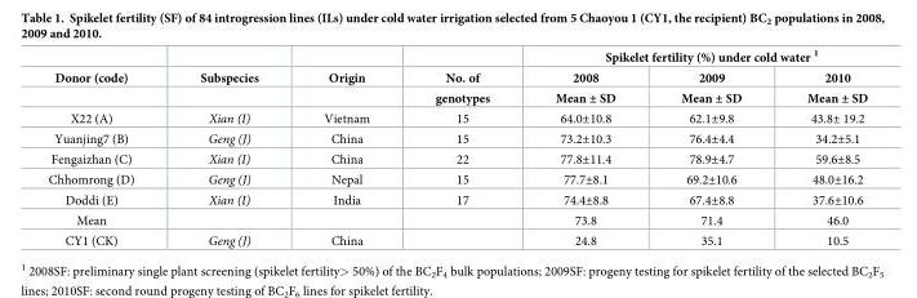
<table><thead><tr><td rowspan="3">Donor (code)</td><td rowspan="3">Subspecies</td><td rowspan="3">Origin</td><td rowspan="3">No. of genotypes</td><td colspan="3">Spikelet fertility (%) under cold water <sup>1</sup></td></tr><tr><td rowspan="2">2008 Mean ± SD</td><td rowspan="2">2009 Mean ± SD</td><td rowspan="2">2010 Mean ± SD</td></tr><tr></tr></thead><tbody><tr><td>X22 (A)</td><td>Xian (I)</td><td>Vietnam</td><td>15</td><td>64.0±10.8</td><td>62.1±9.8</td><td>43.8± 19.2</td></tr><tr><td>Yuanjing7 (B)</td><td>Geng (J)</td><td>China</td><td>15</td><td>73.2±10.3</td><td>76.4±4.4</td><td>34.2±5.1</td></tr><tr><td>Fengaizhan (C)</td><td>Xian (I)</td><td>China</td><td>22</td><td>77.8±11.4</td><td>78.9±4.7</td><td>59.6±8.5</td></tr><tr><td>Chhomrong (D)</td><td>Geng (J)</td><td>Nepal</td><td>15</td><td>77.7±8.1</td><td>69.2±10.6</td><td>48.0±16.2</td></tr><tr><td>Doddi (E)</td><td>Xian (I)</td><td>India</td><td>17</td><td>74.4±8.8</td><td>67.4±8.8</td><td>37.6±10.6</td></tr><tr><td>Mean</td><td></td><td></td><td></td><td>73.8</td><td>71.4</td><td>46.0</td></tr><tr><td>CY1 (CK)</td><td>Geng (J)</td><td>China</td><td></td><td>24.8</td><td>35.1</td><td>10.5</td></tr></tbody></table>